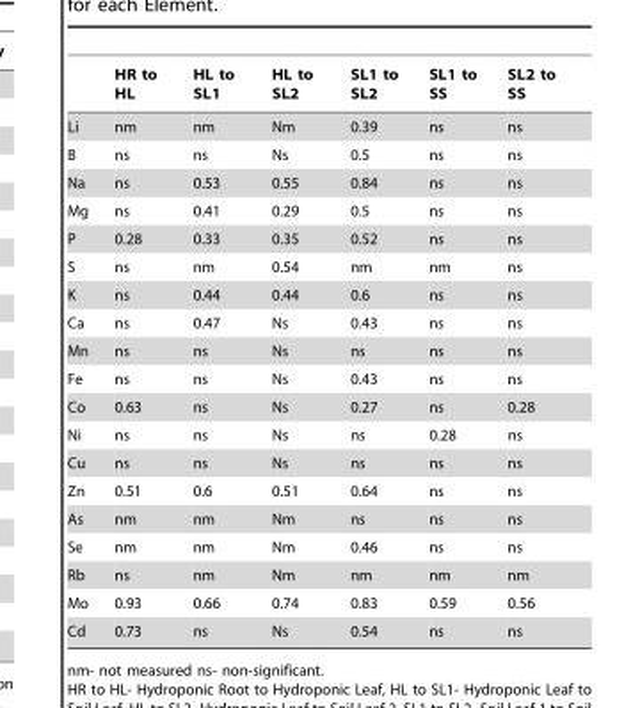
<table><thead><tr><td></td><td>HR to HL</td><td>HL to SL1</td><td>HL to SL2</td><td>SL1 to SL2</td><td>SL1 to SS</td><td>SL2 to SS</td></tr></thead><tbody><tr><td>Li</td><td>nm</td><td>nm</td><td>Nm</td><td>0.39</td><td>ns</td><td>ns</td></tr><tr><td>B</td><td>ns</td><td>ns</td><td>Ns</td><td>0.5</td><td>ns</td><td>ns</td></tr><tr><td>Na</td><td>ns</td><td>0.53</td><td>0.55</td><td>0.84</td><td>ns</td><td>ns</td></tr><tr><td>Mg</td><td>ns</td><td>0.41</td><td>0.29</td><td>0.5</td><td>ns</td><td>ns</td></tr><tr><td>P</td><td>0.28</td><td>0.33</td><td>0.35</td><td>0.52</td><td>ns</td><td>ns</td></tr><tr><td>S</td><td>ns</td><td>nm</td><td>0.54</td><td>nm</td><td>nm</td><td>ns</td></tr><tr><td>K</td><td>ns</td><td>0.44</td><td>0.44</td><td>0.6</td><td>ns</td><td>ns</td></tr><tr><td>Ca</td><td>ns</td><td>0.47</td><td>Ns</td><td>0.43</td><td>ns</td><td>ns</td></tr><tr><td>Mn</td><td>ns</td><td>ns</td><td>Ns</td><td>ns</td><td>ns</td><td>ns</td></tr><tr><td>Fe</td><td>ns</td><td>ns</td><td>Ns</td><td>0.43</td><td>ns</td><td>ns</td></tr><tr><td>Co</td><td>0.63</td><td>ns</td><td>Ns</td><td>0.27</td><td>ns</td><td>0.28</td></tr><tr><td>Ni</td><td>ns</td><td>ns</td><td>Ns</td><td>ns</td><td>0.28</td><td>ns</td></tr><tr><td>Cu</td><td>ns</td><td>ns</td><td>Ns</td><td>ns</td><td>ns</td><td>ns</td></tr><tr><td>Zn</td><td>0.51</td><td>0.6</td><td>0.51</td><td>0.64</td><td>ns</td><td>ns</td></tr><tr><td>As</td><td>nm</td><td>nm</td><td>Nm</td><td>ns</td><td>ns</td><td>ns</td></tr><tr><td>Se</td><td>nm</td><td>nm</td><td>Nm</td><td>0.46</td><td>ns</td><td>ns</td></tr><tr><td>Rb</td><td>ns</td><td>nm</td><td>Nm</td><td>nm</td><td>nm</td><td>nm</td></tr><tr><td>Mo</td><td>0.93</td><td>0.66</td><td>0.74</td><td>0.83</td><td>0.59</td><td>0.56</td></tr><tr><td>Cd</td><td>0.73</td><td>ns</td><td>Ns</td><td>0.54</td><td>ns</td><td>ns</td></tr></tbody></table>